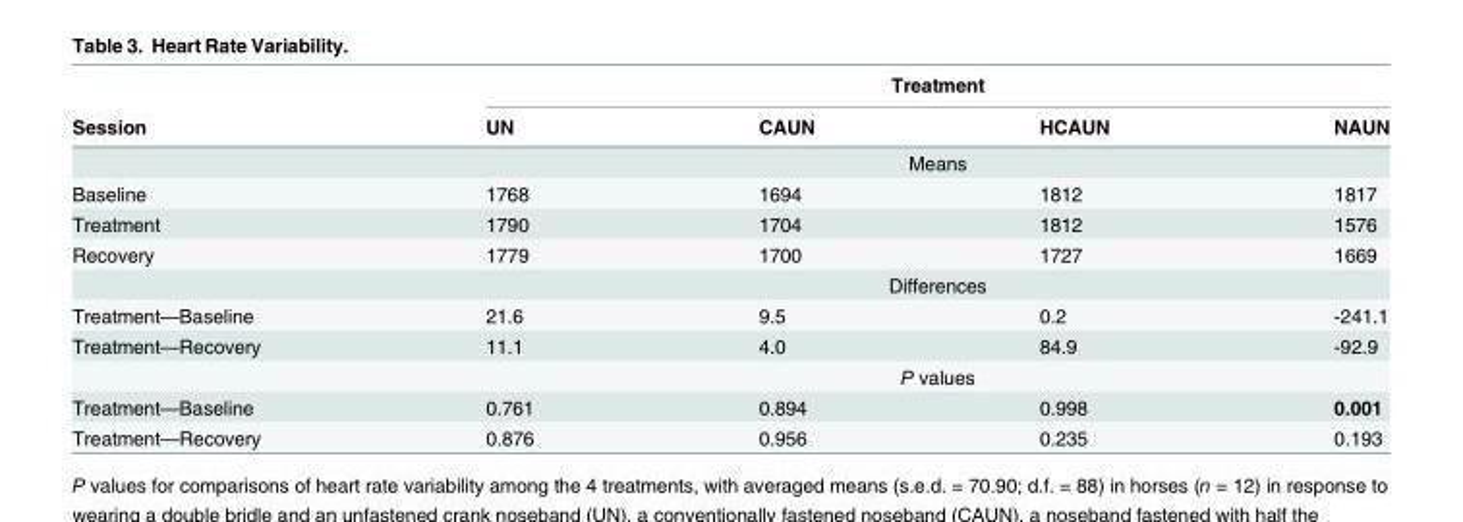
<table><thead><tr><td rowspan="2">Session</td><td colspan="4">Treatment</td></tr><tr><td>UN</td><td>CAUN</td><td>HCAUN</td><td>NAUN</td></tr></thead><tbody><tr><td></td><td colspan="4">Means</td></tr><tr><td>Baseline</td><td>1768</td><td>1694</td><td>1812</td><td>1817</td></tr><tr><td>Treatment</td><td>1790</td><td>1704</td><td>1812</td><td>1576</td></tr><tr><td rowspan="2">Recovery</td><td>1779</td><td>1700</td><td>1727</td><td>1669</td></tr><tr><td colspan="4">Differences</td></tr><tr><td>Treatment—Baseline</td><td>21.6</td><td>9.5</td><td>0.2</td><td>-241.1</td></tr><tr><td rowspan="2">Treatment—Recovery</td><td>11.1</td><td>4.0</td><td>84.9</td><td>-92.9</td></tr><tr><td colspan="4">P values</td></tr><tr><td>Treatment—Baseline</td><td>0.761</td><td>0.894</td><td>0.998</td><td>0.001</td></tr><tr><td>Treatment—Recovery</td><td>0.876</td><td>0.956</td><td>0.235</td><td>0.193</td></tr></tbody></table>